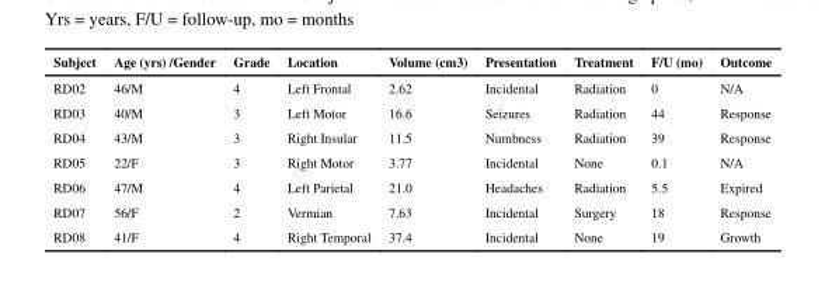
<table><thead><tr><td>Subject</td><td>Age (yrs) /Gender</td><td>Grade</td><td>Location</td><td>Volume (cm3)</td><td>Presentation</td><td>Treatment</td><td>F/U (mo)</td><td>Outcome</td></tr></thead><tbody><tr><td>RD02</td><td>46/M</td><td>4</td><td>Left Frontal</td><td>2.62</td><td>Incidental</td><td>Radiation</td><td>0</td><td>N/A</td></tr><tr><td>RD03</td><td>40/M</td><td>3</td><td>Left Motor</td><td>16.6</td><td>Seizures</td><td>Radiation</td><td>44</td><td>Response</td></tr><tr><td>RD04</td><td>43/M</td><td>3</td><td>Right Insular</td><td>11.5</td><td>Numbness</td><td>Radiation</td><td>39</td><td>Response</td></tr><tr><td>RD05</td><td>22/F</td><td>3</td><td>Right Motor</td><td>3.77</td><td>Incidental</td><td>None</td><td>0.1</td><td>N/A</td></tr><tr><td>RD06</td><td>47/M</td><td>4</td><td>Left Parietal</td><td>21.0</td><td>Headaches</td><td>Radiation</td><td>5.5</td><td>Expired</td></tr><tr><td>RD07</td><td>56/F</td><td>2</td><td>Vermian</td><td>7.63</td><td>Incidental</td><td>Surgery</td><td>18</td><td>Response</td></tr><tr><td>RD08</td><td>41/F</td><td>4</td><td>Right Temporal</td><td>37.4</td><td>Incidental</td><td>None</td><td>19</td><td>Growth</td></tr></tbody></table>